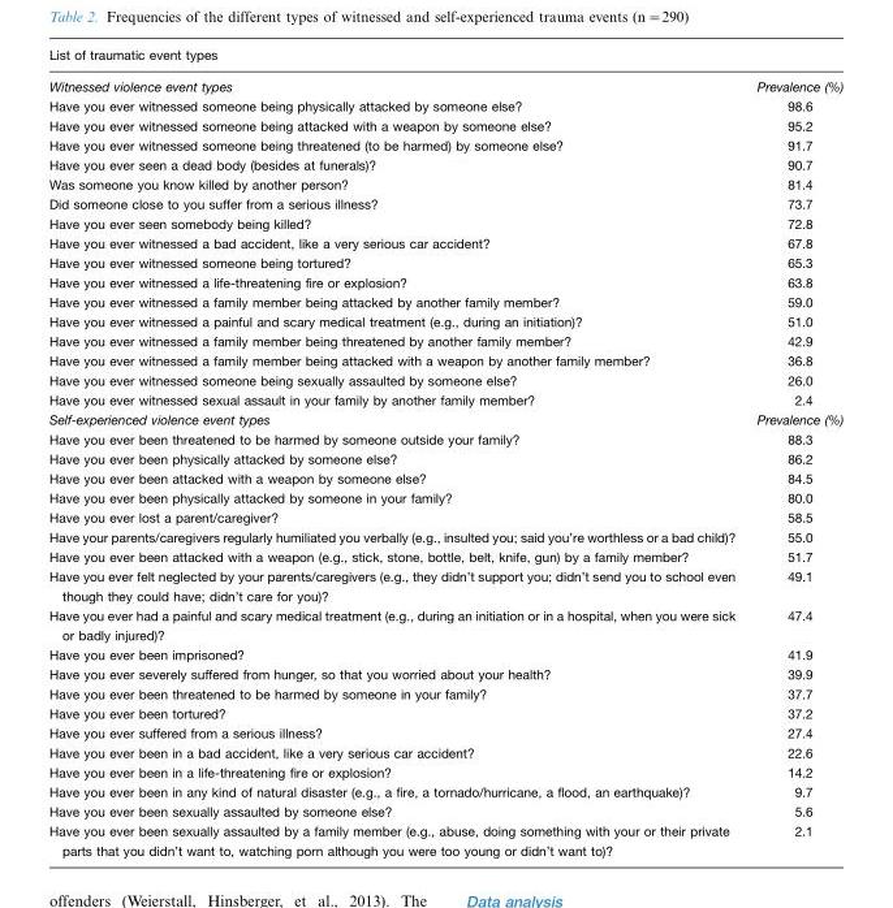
<table><thead><tr><td>List of traumatic event types</td><td></td></tr></thead><tbody><tr><td>Witnessed violence event types</td><td>Prevalence (%)</td></tr><tr><td>Have you ever witnessed someone being physically attacked by someone else?</td><td>98.6</td></tr><tr><td>Have you ever witnessed someone being attacked with a weapon by someone else?</td><td>95.2</td></tr><tr><td>Have you ever witnessed someone being threatened (to be harmed) by someone else?</td><td>91.7</td></tr><tr><td>Have you ever seen a dead body (besides at funerals)?</td><td>90.7</td></tr><tr><td>Was someone you know killed by another person?</td><td>81.4</td></tr><tr><td>Did someone close to you suffer from a serious illness?</td><td>73.7</td></tr><tr><td>Have you ever seen somebody being killed?</td><td>72.8</td></tr><tr><td>Have you ever witnessed a bad accident, like a very serious car accident?</td><td>67.8</td></tr><tr><td>Have you ever witnessed someone being tortured?</td><td>65.3</td></tr><tr><td>Have you ever witnessed a life-threatening fire or explosion?</td><td>63.8</td></tr><tr><td>Have you ever witnessed a family member being attacked by another family member?</td><td>59.0</td></tr><tr><td>Have you ever witnessed a painful and scary medical treatment (e.g., during an initiation)?</td><td>51.0</td></tr><tr><td>Have you ever witnessed a family member being threatened by another family member?</td><td>42.9</td></tr><tr><td>Have you ever witnessed a family member being attacked with a weapon by another family member?</td><td>36.8</td></tr><tr><td>Have you ever witnessed someone being sexually assaulted by someone else?</td><td>26.0</td></tr><tr><td>Have you ever witnessed sexual assault in your family by another family member?</td><td>2.4</td></tr><tr><td>Self-experienced violence event types</td><td>Prevalence (%)</td></tr><tr><td>Have you ever been threatened to be harmed by someone outside your family?</td><td>88.3</td></tr><tr><td>Have you ever been physically attacked by someone else?</td><td>86.2</td></tr><tr><td>Have you ever been attacked with a weapon by someone else?</td><td>84.5</td></tr><tr><td>Have you ever been physically attacked by someone in your family?</td><td>80.0</td></tr><tr><td>Have you ever lost a parent/caregiver?</td><td>58.5</td></tr><tr><td>Have your parents/caregivers regularly humiliated you verbally (e.g., insulted you; said you’re worthless or a bad child)?</td><td>55.0</td></tr><tr><td>Have you ever been attacked with a weapon (e.g., stick, stone, bottle, belt, knife, gun) by a family member?</td><td>51.7</td></tr><tr><td>Have you ever felt neglected by your parents/caregivers (e.g., they didn’t support you; didn’t send you to school even though they could have; didn’t care for you)?</td><td>49.1</td></tr><tr><td>Have you ever had a painful and scary medical treatment (e.g., during an initiation or in a hospital, when you were sick or badly injured)?</td><td>47.4</td></tr><tr><td>Have you ever been imprisoned?</td><td>41.9</td></tr><tr><td>Have you ever severely suffered from hunger, so that you worried about your health?</td><td>39.9</td></tr><tr><td>Have you ever been threatened to be harmed by someone in your family?</td><td>37.7</td></tr><tr><td>Have you ever been tortured?</td><td>37.2</td></tr><tr><td>Have you ever suffered from a serious illness?</td><td>27.4</td></tr><tr><td>Have you ever been in a bad accident, like a very serious car accident?</td><td>22.6</td></tr><tr><td>Have you ever been in a life-threatening fire or explosion?</td><td>14.2</td></tr><tr><td>Have you ever been in any kind of natural disaster (e.g., a fire, a tornado/hurricane, a flood, an earthquake)?</td><td>9.7</td></tr><tr><td>Have you ever been sexually assaulted by someone else?</td><td>5.6</td></tr><tr><td>Have you ever been sexually assaulted by a family member (e.g., abuse, doing something with your or their private parts that you didn’t want to, watching porn although you were too young or didn’t want to)?</td><td>2.1</td></tr></tbody></table>